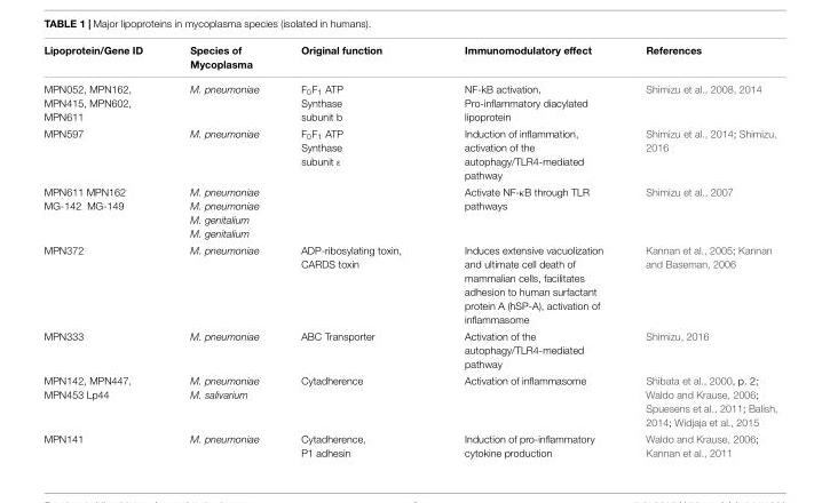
<table><thead><tr><td>Lipoprotein/Gene ID</td><td>Species of Mycoplasma</td><td>Original function</td><td>Immunomodulatory effect</td><td>References</td></tr></thead><tbody><tr><td>MPN052, MPN162, MPN415, MPN602, MPN611</td><td>M. pneumoniae</td><td>F<sub>0</sub>F<sub>1</sub> ATP Synthase subunit b</td><td>NF-kB activation, Pro-inflammatory diacylated lipoprotein</td><td>Shimizu et al., 2008, 2014</td></tr><tr><td>MPN597</td><td>M. pneumoniae</td><td>F<sub>0</sub>F<sub>1</sub> ATP Synthase subunit ε</td><td>Induction of inflammation, activation of the autophagy/TLR4-mediated pathway</td><td>Shimizu et al., 2014; Shimizu, 2016</td></tr><tr><td>MPN611 MPN162 MG-142 MG-149</td><td>M. pneumoniae M. pneumoniae M. genitalium M. genitalium</td><td></td><td>Activate NF-κB through TLR pathways</td><td>Shimizu et al., 2007</td></tr><tr><td>MPN372</td><td>M. pneumoniae</td><td>ADP-ribosylating toxin, CARDS toxin</td><td>Induces extensive vacuolization and ultimate cell death of mammalian cells, facilitates adhesion to human surfactant protein A (hSP-A), activation of inflammasome</td><td>Kannan et al., 2005; Kannan and Baseman, 2006</td></tr><tr><td>MPN333</td><td>M. pneumoniae</td><td>ABC Transporter</td><td>Activation of the autophagy/TLR4-mediated pathway</td><td>Shimizu, 2016</td></tr><tr><td>MPN142, MPN447, MPN453 Lp44</td><td>M. pneumoniae M. salivarium</td><td>Cytadherence</td><td>Activation of inflammasome</td><td>Shibata et al., 2000, p. 2; Waldo and Krause, 2006; Spuesens et al., 2011; Balish, 2014; Widjaja et al., 2015</td></tr><tr><td>MPN141</td><td>M. pneumoniae</td><td>Cytadherence, P1 adhesin</td><td>Induction of pro-inflammatory cytokine production</td><td>Waldo and Krause, 2006; Kannan et al., 2011</td></tr></tbody></table>